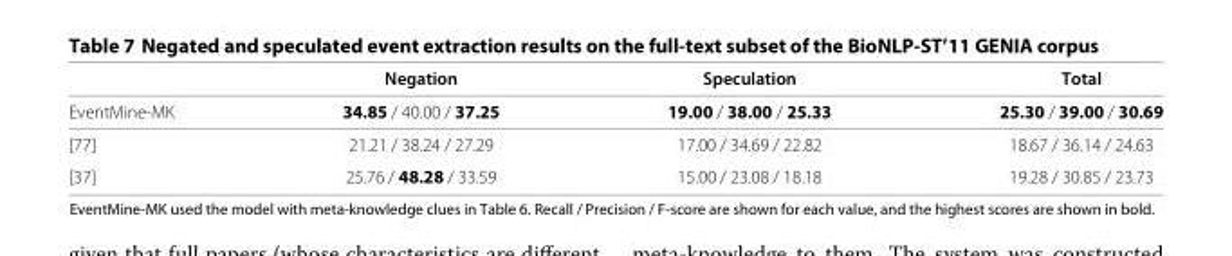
<table><thead><tr><td></td><td>Negation</td><td>Speculation</td><td>Total</td></tr></thead><tbody><tr><td>EventMine-MK</td><td>34.85 / 40.00 / 37.25</td><td>19.00 / 38.00 / 25.33</td><td>25.30 / 39.00 / 30.69</td></tr><tr><td>[77]</td><td>21.21 / 38.24 / 27.29</td><td>17.00 / 34.69 / 22.82</td><td>18.67 / 36.14 / 24.63</td></tr><tr><td>[37]</td><td>25.76 / 48.28 / 33.59</td><td>15.00 / 23.08 / 18.18</td><td>19.28 / 30.85 / 23.73</td></tr></tbody></table>